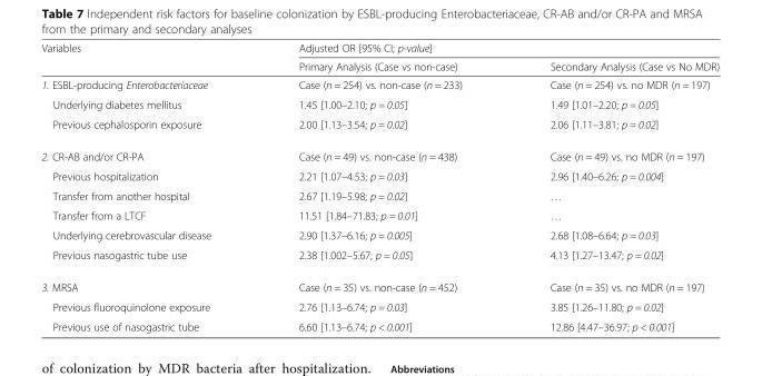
<table><thead><tr><td rowspan="2">Variables</td><td colspan="2">Adjusted OR [95% CI; p-value]</td></tr><tr><td>Primary Analysis (Case vs non-case)</td><td>Secondary Analysis (Case vs No MDR)</td></tr></thead><tbody><tr><td>1. ESBL-producing Enterobacteriaceae</td><td>Case (n = 254) vs. non-case (n = 233)</td><td>Case (n = 254) vs. no MDR (n = 197)</td></tr><tr><td>Underlying diabetes mellitus</td><td>1.45 [1.00–2.10; p = 0.05]</td><td>1.49 [1.01–2.20; p = 0.05]</td></tr><tr><td>Previous cephalosporin exposure</td><td>2.00 [1.13–3.54; p = 0.02]</td><td>2.06 [1.11–3.81; p = 0.02]</td></tr><tr><td>2. CR-AB and/or CR-PA</td><td>Case (n = 49) vs. non-case (n = 438)</td><td>Case (n = 49) vs. no MDR (n = 197)</td></tr><tr><td>Previous hospitalization</td><td>2.21 [1.07–4.53; p = 0.03]</td><td>2.96 [1.40–6.26; p = 0.004]</td></tr><tr><td>Transfer from another hospital</td><td>2.67 [1.19–5.98; p = 0.02]</td><td>…</td></tr><tr><td>Transfer from a LTCF</td><td>11.51 [1.84–71.83; p = 0.01]</td><td>…</td></tr><tr><td>Underlying cerebrovascular disease</td><td>2.90 [1.37–6.16; p = 0.005]</td><td>2.68 [1.08–6.64; p = 0.03]</td></tr><tr><td>Previous nasogastric tube use</td><td>2.38 [1.002–5.67; p = 0.05]</td><td>4.13 [1.27–13.47; p = 0.02]</td></tr><tr><td>3. MRSA</td><td>Case (n = 35) vs. non-case (n = 452)</td><td>Case (n = 35) vs. no MDR (n = 197)</td></tr><tr><td>Previous fluoroquinolone exposure</td><td>2.76 [1.13–6.74; p = 0.03]</td><td>3.85 [1.26–11.80; p = 0.02]</td></tr><tr><td>Previous use of nasogastric tube</td><td>6.60 [1.13–6.74; p &lt; 0.001]</td><td>12.86 [4.47–36.97; p &lt; 0.001]</td></tr></tbody></table>